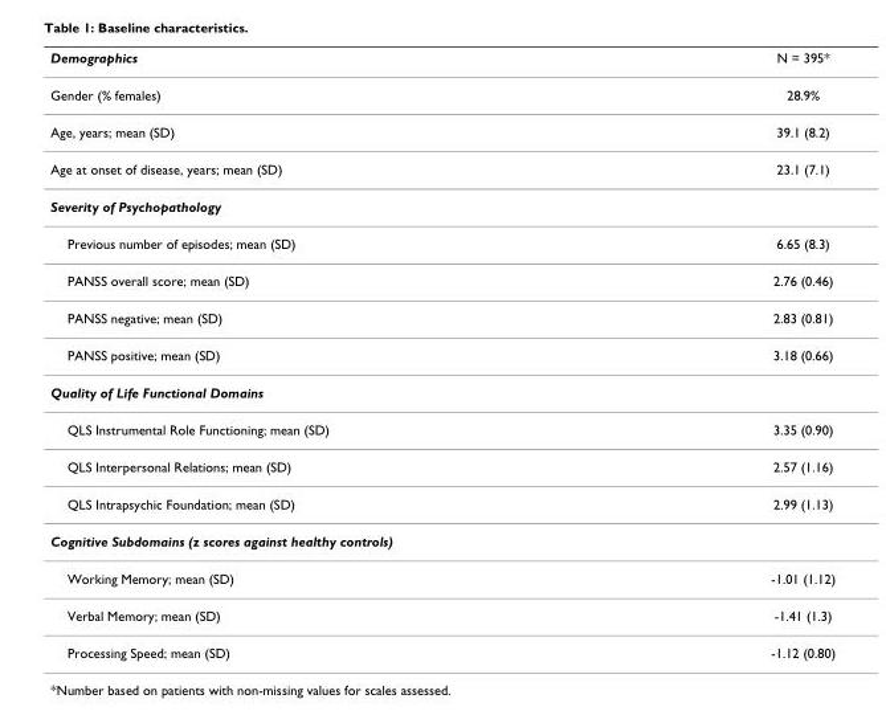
<table><thead><tr><td>Demographics</td><td>N = 395*</td></tr></thead><tbody><tr><td>Gender (% females)</td><td>28.9%</td></tr><tr><td>Age, years; mean (SD)</td><td>39.1 (8.2)</td></tr><tr><td>Age at onset of disease, years; mean (SD)</td><td>23.1 (7.1)</td></tr><tr><td colspan="2">Severity of Psychopathology</td></tr><tr><td>Previous number of episodes; mean (SD)</td><td>6.65 (8.3)</td></tr><tr><td>PANSS overall score; mean (SD)</td><td>2.76 (0.46)</td></tr><tr><td>PANSS negative; mean (SD)</td><td>2.83 (0.81)</td></tr><tr><td>PANSS positive; mean (SD)</td><td>3.18 (0.66)</td></tr><tr><td colspan="2">Quality of Life Functional Domains</td></tr><tr><td>QLS Instrumental Role Functioning; mean (SD)</td><td>3.35 (0.90)</td></tr><tr><td>QLS Interpersonal Relations; mean (SD)</td><td>2.57 (1.16)</td></tr><tr><td>QLS Intrapsychic Foundation; mean (SD)</td><td>2.99 (1.13)</td></tr><tr><td colspan="2">Cognitive Subdomains (z scores against healthy controls)</td></tr><tr><td>Working Memory; mean (SD)</td><td>-1.01 (1.12)</td></tr><tr><td>Verbal Memory; mean (SD)</td><td>-1.41 (1.3)</td></tr><tr><td>Processing Speed; mean (SD)</td><td>-1.12 (0.80)</td></tr></tbody></table>